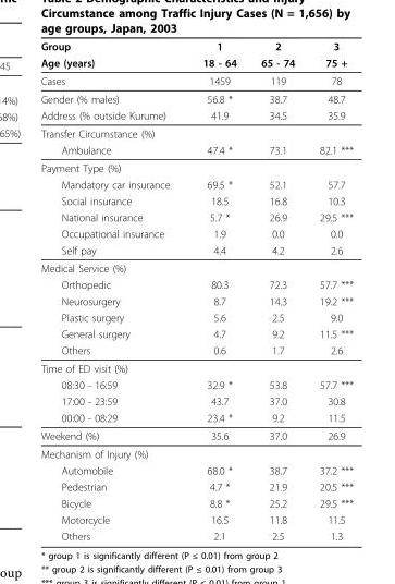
<table><thead><tr><td rowspan="2">Group Age (years)</td><td rowspan="2">1 18 - 64</td><td rowspan="2">2 65 - 74</td><td rowspan="2">3 75 +</td></tr><tr></tr></thead><tbody><tr><td>Cases</td><td>1459</td><td>119</td><td>78</td></tr><tr><td>Gender (% males)</td><td>56.8 *</td><td>38.7</td><td>48.7</td></tr><tr><td>Address (% outside Kurume)</td><td>41.9</td><td>34.5</td><td>35.9</td></tr><tr><td colspan="4">Transfer Circumstance (%)</td></tr><tr><td>Ambulance</td><td>47.4 *</td><td>73.1</td><td>82.1 ***</td></tr><tr><td colspan="4">Payment Type (%)</td></tr><tr><td>Mandatory car insurance</td><td>69.5 *</td><td>52.1</td><td>57.7</td></tr><tr><td>Social insurance</td><td>18.5</td><td>16.8</td><td>10.3</td></tr><tr><td>National insurance</td><td>5.7 *</td><td>26.9</td><td>29.5 ***</td></tr><tr><td>Occupational insurance</td><td>1.9</td><td>0.0</td><td>0.0</td></tr><tr><td>Self pay</td><td>4.4</td><td>4.2</td><td>2.6</td></tr><tr><td colspan="4">Medical Service (%)</td></tr><tr><td>Orthopedic</td><td>80.3</td><td>72.3</td><td>57.7 ***</td></tr><tr><td>Neurosurgery</td><td>8.7</td><td>14.3</td><td>19.2 ***</td></tr><tr><td>Plastic surgery</td><td>5.6</td><td>2.5</td><td>9.0</td></tr><tr><td>General surgery</td><td>4.7</td><td>9.2</td><td>11.5 ***</td></tr><tr><td>Others</td><td>0.6</td><td>1.7</td><td>2.6</td></tr><tr><td colspan="4">Time of ED visit (%)</td></tr><tr><td>08:30 - 16:59</td><td>32.9 *</td><td>53.8</td><td>57.7 ***</td></tr><tr><td>17:00 - 23:59</td><td>43.7</td><td>37.0</td><td>30.8</td></tr><tr><td>00:00 - 08:29</td><td>23.4 *</td><td>9.2</td><td>11.5</td></tr><tr><td>Weekend (%)</td><td>35.6</td><td>37.0</td><td>26.9</td></tr><tr><td colspan="4">Mechanism of Injury (%)</td></tr><tr><td>Automobile</td><td>68.0 *</td><td>38.7</td><td>37.2 ***</td></tr><tr><td>Pedestrian</td><td>4.7 *</td><td>21.9</td><td>20.5 ***</td></tr><tr><td>Bicycle</td><td>8.8 *</td><td>25.2</td><td>29.5 ***</td></tr><tr><td>Motorcycle</td><td>16.5</td><td>11.8</td><td>11.5</td></tr><tr><td>Others</td><td>2.1</td><td>2.5</td><td>1.3</td></tr></tbody></table>